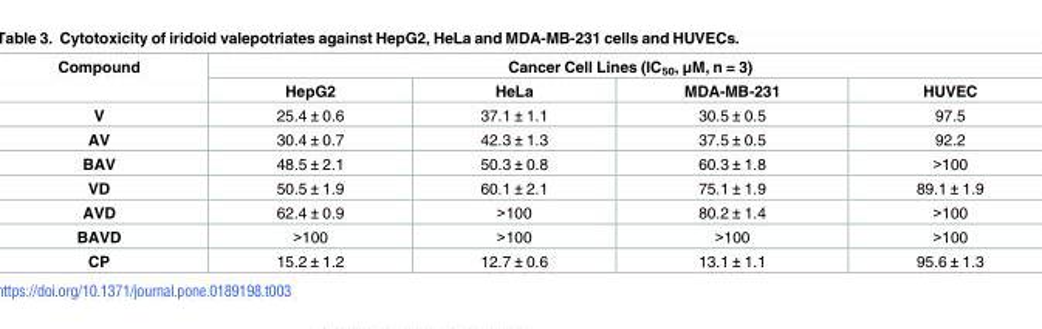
<table><thead><tr><td rowspan="2">Compound</td><td colspan="4">Cancer Cell Lines (IC<sub>50</sub>, μM, n = 3)</td></tr><tr><td>HepG2</td><td>HeLa</td><td>MDA-MB-231</td><td>HUVEC</td></tr></thead><tbody><tr><td>V</td><td>25.4 ± 0.6</td><td>37.1 ± 1.1</td><td>30.5 ± 0.5</td><td>97.5</td></tr><tr><td>AV</td><td>30.4 ± 0.7</td><td>42.3 ± 1.3</td><td>37.5 ± 0.5</td><td>92.2</td></tr><tr><td>BAV</td><td>48.5 ± 2.1</td><td>50.3 ± 0.8</td><td>60.3 ± 1.8</td><td>&gt;100</td></tr><tr><td>VD</td><td>50.5 ± 1.9</td><td>60.1 ± 2.1</td><td>75.1 ± 1.9</td><td>89.1 ± 1.9</td></tr><tr><td>AVD</td><td>62.4 ± 0.9</td><td>&gt;100</td><td>80.2 ± 1.4</td><td>&gt;100</td></tr><tr><td>BAVD</td><td>&gt;100</td><td>&gt;100</td><td>&gt;100</td><td>&gt;100</td></tr><tr><td>CP</td><td>15.2 ± 1.2</td><td>12.7 ± 0.6</td><td>13.1 ± 1.1</td><td>95.6 ± 1.3</td></tr></tbody></table>